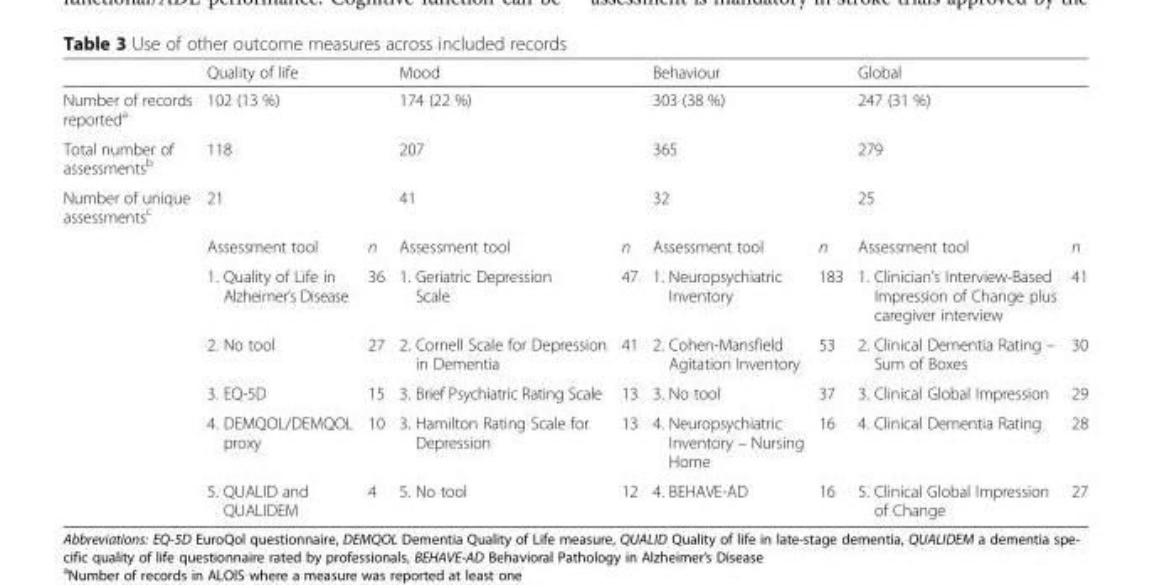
<table><thead><tr><td></td><td colspan="2">Quality of life</td><td colspan="2">Mood</td><td colspan="2">Behaviour</td><td colspan="2">Global</td></tr></thead><tbody><tr><td>Number of records reported<sup>a</sup></td><td colspan="2">102 (13 %)</td><td colspan="2">174 (22 %)</td><td colspan="2">303 (38 %)</td><td colspan="2">247 (31 %)</td></tr><tr><td>Total number of assessments<sup>b</sup></td><td colspan="2">118</td><td colspan="2">207</td><td colspan="2">365</td><td colspan="2">279</td></tr><tr><td rowspan="7">Number of unique assessments<sup>c</sup></td><td colspan="2">21</td><td colspan="2">41</td><td colspan="2">32</td><td colspan="2">25</td></tr><tr><td>Assessment tool</td><td>n</td><td>Assessment tool</td><td>n</td><td>Assessment tool</td><td>n</td><td>Assessment tool</td><td>n</td></tr><tr><td>1. Quality of Life in Alzheimer’s Disease</td><td>36</td><td>1. Geriatric Depression Scale</td><td>47</td><td>1. Neuropsychiatric Inventory</td><td>183</td><td>1. Clinician’s Interview-Based Impression of Change plus caregiver interview</td><td>41</td></tr><tr><td>2. No tool</td><td>27</td><td>2. Cornell Scale for Depression in Dementia</td><td>41</td><td>2. Cohen-Mansfield Agitation Inventory</td><td>53</td><td>2. Clinical Dementia Rating – Sum of Boxes</td><td>30</td></tr><tr><td>3. EQ-5D</td><td>15</td><td>3. Brief Psychiatric Rating Scale</td><td>13</td><td>3. No tool</td><td>37</td><td>3. Clinical Global Impression</td><td>29</td></tr><tr><td>4. DEMQOL/DEMQOL proxy</td><td>10</td><td>3. Hamilton Rating Scale for Depression</td><td>13</td><td>4. Neuropsychiatric Inventory – Nursing Home</td><td>16</td><td>4. Clinical Dementia Rating</td><td>28</td></tr><tr><td>5. QUALID and QUALIDEM</td><td>4</td><td>5. No tool</td><td>12</td><td>4. BEHAVE-AD</td><td>16</td><td>5. Clinical Global Impression of Change</td><td>27</td></tr></tbody></table>